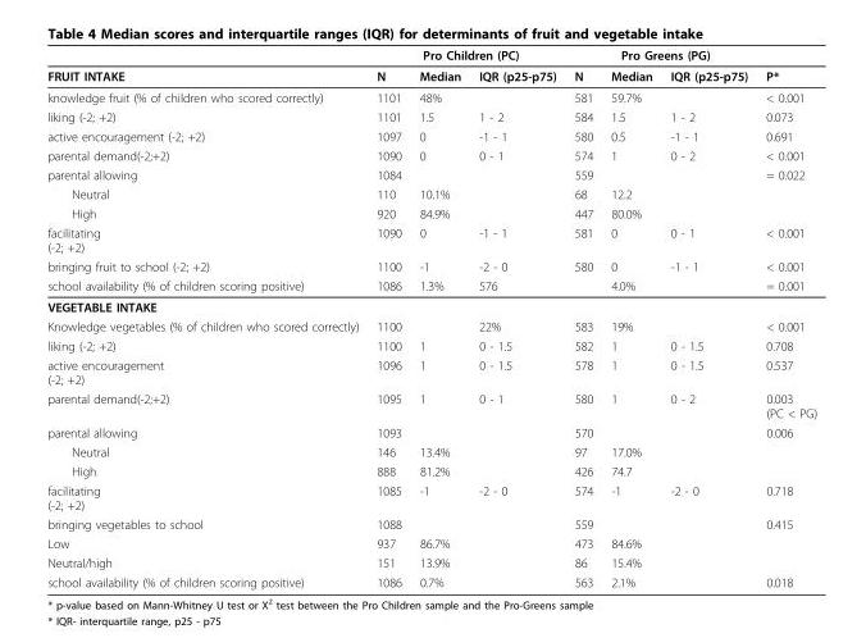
<table><thead><tr><td rowspan="2">FRUIT INTAKE</td><td colspan="3">Pro Children (PC)</td><td colspan="3">Pro Greens (PG)</td><td rowspan="2">P*</td></tr><tr><td>N</td><td>Median</td><td>IQR (p25-p75)</td><td>N</td><td>Median</td><td>IQR (p25-p75)</td></tr></thead><tbody><tr><td>knowledge fruit (% of children who scored correctly)</td><td>1101</td><td colspan="2">48%</td><td>581</td><td colspan="2">59.7%</td><td>&lt; 0.001</td></tr><tr><td>liking (-2; +2)</td><td>1101</td><td>1.5</td><td>1 - 2</td><td>584</td><td>1.5</td><td>1 - 2</td><td>0.073</td></tr><tr><td>active encouragement (-2; +2)</td><td>1097</td><td>0</td><td>-1 - 1</td><td>580</td><td>0.5</td><td>-1 - 1</td><td>0.691</td></tr><tr><td>parental demand(-2;+2)</td><td>1090</td><td>0</td><td>0 - 1</td><td>574</td><td>1</td><td>0 - 2</td><td>&lt; 0.001</td></tr><tr><td>parental allowing</td><td>1084</td><td></td><td></td><td>559</td><td></td><td></td><td>= 0.022</td></tr><tr><td>Neutral</td><td>110</td><td>10.1%</td><td></td><td>68</td><td>12.2</td><td></td><td></td></tr><tr><td>High</td><td>920</td><td>84.9%</td><td></td><td>447</td><td>80.0%</td><td></td><td></td></tr><tr><td>facilitating (-2; +2)</td><td>1090</td><td>0</td><td>-1 - 1</td><td>581</td><td>0</td><td>0 - 1</td><td>&lt; 0.001</td></tr><tr><td>bringing fruit to school (-2; +2)</td><td>1100</td><td>-1</td><td>-2 - 0</td><td>580</td><td>0</td><td>-1 - 1</td><td>&lt; 0.001</td></tr><tr><td>school availability (% of children scoring positive)</td><td>1086</td><td>1.3%</td><td colspan="2">576</td><td colspan="2">4.0%</td><td>= 0.001</td></tr><tr><td colspan="8">VEGETABLE INTAKE</td></tr><tr><td>Knowledge vegetables (% of children who scored correctly)</td><td colspan="2">1100</td><td>22%</td><td>583</td><td>19%</td><td></td><td>&lt; 0.001</td></tr><tr><td>liking (-2; +2)</td><td>1100</td><td>1</td><td>0 - 1.5</td><td>582</td><td>1</td><td>0 - 1.5</td><td>0.708</td></tr><tr><td>active encouragement (-2; +2)</td><td>1096</td><td>1</td><td>0 - 1.5</td><td>578</td><td>1</td><td>0 - 1.5</td><td>0.537</td></tr><tr><td>parental demand(-2;+2)</td><td>1095</td><td>1</td><td>0 - 1</td><td>580</td><td>1</td><td>0 - 2</td><td>0.003 (PC &lt; PG)</td></tr><tr><td>parental allowing</td><td>1093</td><td></td><td></td><td>570</td><td></td><td></td><td>0.006</td></tr><tr><td>Neutral</td><td>146</td><td>13.4%</td><td></td><td>97</td><td>17.0%</td><td></td><td></td></tr><tr><td>High</td><td>888</td><td>81.2%</td><td></td><td>426</td><td>74.7</td><td></td><td></td></tr><tr><td>facilitating (-2; +2)</td><td>1085</td><td>-1</td><td>-2 - 0</td><td>574</td><td>-1</td><td>-2 - 0</td><td>0.718</td></tr><tr><td>bringing vegetables to school</td><td>1088</td><td></td><td></td><td>559</td><td></td><td></td><td>0.415</td></tr><tr><td>Low</td><td>937</td><td>86.7%</td><td></td><td>473</td><td>84.6%</td><td></td><td></td></tr><tr><td>Neutral/high</td><td>151</td><td>13.9%</td><td></td><td>86</td><td colspan="2">15.4%</td><td></td></tr><tr><td>school availability (% of children scoring positive)</td><td>1086</td><td colspan="2">0.7%</td><td>563</td><td colspan="2">2.1%</td><td>0.018</td></tr></tbody></table>